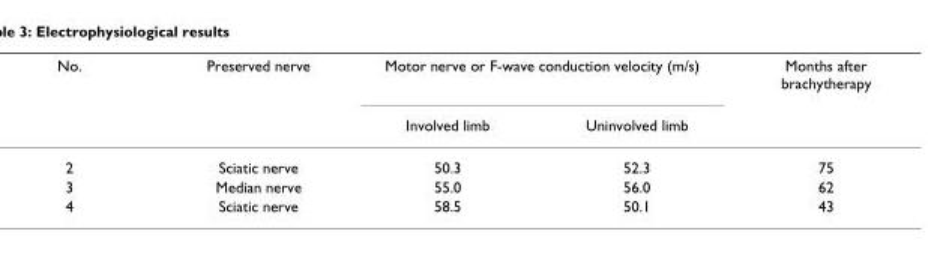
<table><thead><tr><td rowspan="2">No.</td><td rowspan="2">Preserved nerve</td><td colspan="2">Motor nerve or F-wave conduction velocity (m/s)</td><td rowspan="2">Months after brachytherapy</td></tr><tr><td>Involved limb</td><td>Uninvolved limb</td></tr></thead><tbody><tr><td>2</td><td>Sciatic nerve</td><td>50.3</td><td>52.3</td><td>75</td></tr><tr><td>3</td><td>Median nerve</td><td>55.0</td><td>56.0</td><td>62</td></tr><tr><td>4</td><td>Sciatic nerve</td><td>58.5</td><td>50.1</td><td>43</td></tr></tbody></table>